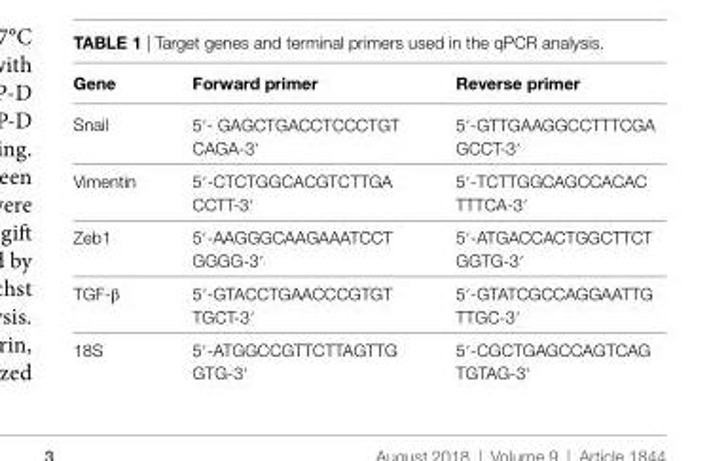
<table><thead><tr><td>gene</td><td>Forward primer</td><td>reverse primer</td></tr></thead><tbody><tr><td>Snail</td><td>5′- GAGCTGACCTCCCTGT CAGA-3′</td><td>5′-GTTGAAGGCCTTTCGA GCCT-3′</td></tr><tr><td>Vimentin</td><td>5′-CTCTGGCACGTCTTGA CCTT-3′</td><td>5′-TCTTGGCAGCCACAC TTTCA-3′</td></tr><tr><td>Zeb1</td><td>5′-AAGGGCAAGAAATCCT GGGG-3′</td><td>5′-ATGACCACTGGCTTCT GGTG-3′</td></tr><tr><td>TGF-β</td><td>5′-GTACCTGAACCCGTGT TGCT-3′</td><td>5′-GTATCGCCAGGAATTG TTGC-3′</td></tr><tr><td>18S</td><td>5′-ATGGCCGTTCTTAGTTG GTG-3′</td><td>5′-CGCTGAGCCAGTCAG TGTAG-3′</td></tr></tbody></table>